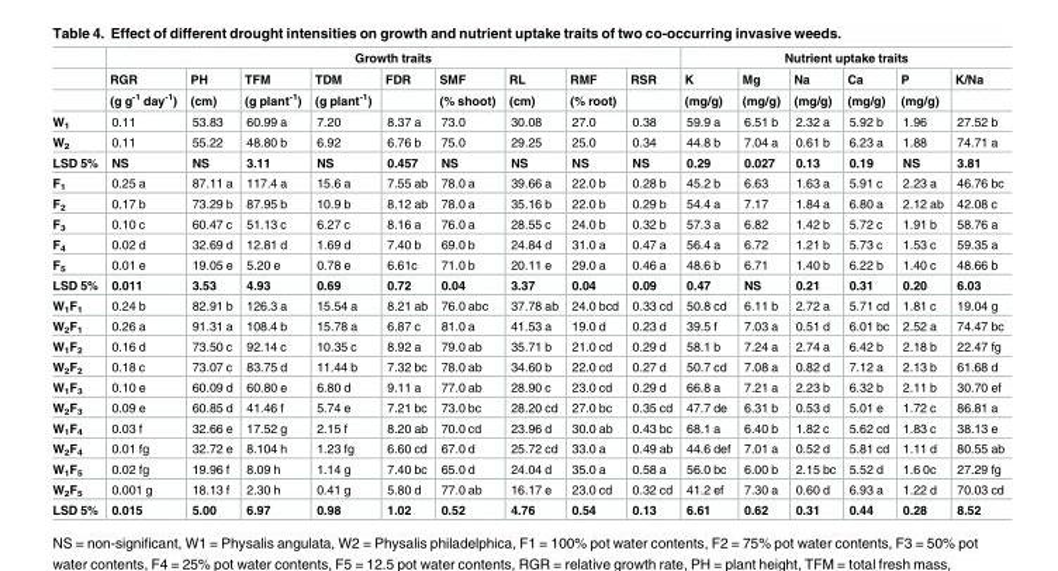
<table><thead><tr><td rowspan="3"></td><td colspan="9">Growth traits</td><td colspan="6">Nutrient uptake traits</td></tr><tr><td rowspan="2">RGR (g g<sup>-1</sup> day<sup>-1</sup>)</td><td rowspan="2">PH (cm)</td><td rowspan="2">TFM (g plant<sup>-1</sup>)</td><td rowspan="2">TDM (g plant<sup>-1</sup>)</td><td rowspan="2">FDR</td><td rowspan="2">SMF (% shoot)</td><td rowspan="2">RL (cm)</td><td rowspan="2">RMF (% root)</td><td rowspan="2">RSR</td><td rowspan="2">K (mg/g)</td><td rowspan="2">Mg (mg/g)</td><td rowspan="2">Na (mg/g)</td><td rowspan="2">Ca (mg/g)</td><td rowspan="2">P (mg/g)</td><td rowspan="2">K/Na</td></tr><tr></tr></thead><tbody><tr><td>W<sub>1</sub></td><td>0.11</td><td>53.83</td><td>60.99 a</td><td>7.20</td><td>8.37 a</td><td>73.0</td><td>30.08</td><td>27.0</td><td>0.38</td><td>59.9 a</td><td>6.51 b</td><td>2.32 a</td><td>5.92 b</td><td>1.96</td><td>27.52 b</td></tr><tr><td>W<sub>2</sub></td><td>0.11</td><td>55.22</td><td>48.80 b</td><td>6.92</td><td>6.76 b</td><td>75.0</td><td>29.25</td><td>25.0</td><td>0.34</td><td>44.8 b</td><td>7.04 a</td><td>0.61 b</td><td>6.23 a</td><td>1.88</td><td>74.71 a</td></tr><tr><td>LSD 5%</td><td>NS</td><td>NS</td><td>3.11</td><td>NS</td><td>0.457</td><td>NS</td><td>NS</td><td>NS</td><td>NS</td><td>0.29</td><td>0.027</td><td>0.13</td><td>0.19</td><td>NS</td><td>3.81</td></tr><tr><td>F<sub>1</sub></td><td>0.25 a</td><td>87.11 a</td><td>117.4 a</td><td>15.6 a</td><td>7.55 ab</td><td>78.0 a</td><td>39.66 a</td><td>22.0 b</td><td>0.28 b</td><td>45.2 b</td><td>6.63</td><td>1.63 a</td><td>5.91 c</td><td>2.23 a</td><td>46.76 bc</td></tr><tr><td>F<sub>2</sub></td><td>0.17 b</td><td>73.29 b</td><td>87.95 b</td><td>10.9 b</td><td>8.12 ab</td><td>78.0 a</td><td>35.16 b</td><td>22.0 b</td><td>0.29 b</td><td>54.4 a</td><td>7.17</td><td>1.84 a</td><td>6.80 a</td><td>2.12 ab</td><td>42.08 c</td></tr><tr><td>F<sub>3</sub></td><td>0.10 c</td><td>60.47 c</td><td>51.13 c</td><td>6.27 c</td><td>8.16 a</td><td>76.0 a</td><td>28.55 c</td><td>24.0 b</td><td>0.32 b</td><td>57.3 a</td><td>6.82</td><td>1.42 b</td><td>5.72 c</td><td>1.91 b</td><td>58.76 a</td></tr><tr><td>F<sub>4</sub></td><td>0.02 d</td><td>32.69 d</td><td>12.81 d</td><td>1.69 d</td><td>7.40 b</td><td>69.0 b</td><td>24.84 d</td><td>31.0 a</td><td>0.47 a</td><td>56.4 a</td><td>6.72</td><td>1.21 b</td><td>5.73 c</td><td>1.53 c</td><td>59.35 a</td></tr><tr><td>F<sub>5</sub></td><td>0.01 e</td><td>19.05 e</td><td>5.20 e</td><td>0.78 e</td><td>6.61c</td><td>71.0 b</td><td>20.11 e</td><td>29.0 a</td><td>0.46 a</td><td>48.6 b</td><td>6.71</td><td>1.40 b</td><td>6.22 b</td><td>1.40 c</td><td>48.66 b</td></tr><tr><td>LSD 5%</td><td>0.011</td><td>3.53</td><td>4.93</td><td>0.69</td><td>0.72</td><td>0.04</td><td>3.37</td><td>0.04</td><td>0.09</td><td>0.47</td><td>NS</td><td>0.21</td><td>0.31</td><td>0.20</td><td>6.03</td></tr><tr><td>W<sub>1</sub>F<sub>1</sub></td><td>0.24 b</td><td>82.91 b</td><td>126.3 a</td><td>15.54 a</td><td>8.21 ab</td><td>76.0 abc</td><td>37.78 ab</td><td>24.0 bcd</td><td>0.33 cd</td><td>50.8 cd</td><td>6.11 b</td><td>2.72 a</td><td>5.71 cd</td><td>1.81 c</td><td>19.04 g</td></tr><tr><td>W<sub>2</sub>F<sub>1</sub></td><td>0.26 a</td><td>91.31 a</td><td>108.4 b</td><td>15.78 a</td><td>6.87 c</td><td>81.0 a</td><td>41.53 a</td><td>19.0 d</td><td>0.23 d</td><td>39.5 f</td><td>7.03 a</td><td>0.51 d</td><td>6.01 bc</td><td>2.52 a</td><td>74.47 bc</td></tr><tr><td>W<sub>1</sub>F<sub>2</sub></td><td>0.16 d</td><td>73.50 c</td><td>92.14 c</td><td>10.35 c</td><td>8.92 a</td><td>79.0 ab</td><td>35.71 b</td><td>21.0 cd</td><td>0.29 d</td><td>58.1 b</td><td>7.24 a</td><td>2.74 a</td><td>6.42 b</td><td>2.18 b</td><td>22.47 fg</td></tr><tr><td>W<sub>2</sub>F<sub>2</sub></td><td>0.18 c</td><td>73.07 c</td><td>83.75 d</td><td>11.44 b</td><td>7.32 bc</td><td>78.0 ab</td><td>34.60 b</td><td>22.0 cd</td><td>0.27 d</td><td>50.7 cd</td><td>7.08 a</td><td>0.82 d</td><td>7.12 a</td><td>2.13 b</td><td>61.68 d</td></tr><tr><td>W<sub>1</sub>F<sub>3</sub></td><td>0.10 e</td><td>60.09 d</td><td>60.80 e</td><td>6.80 d</td><td>9.11 a</td><td>77.0 ab</td><td>28.90 c</td><td>23.0 cd</td><td>0.29 d</td><td>66.8 a</td><td>7.21 a</td><td>2.23 b</td><td>6.32 b</td><td>2.11 b</td><td>30.70 ef</td></tr><tr><td>W<sub>2</sub>F<sub>3</sub></td><td>0.09 e</td><td>60.85 d</td><td>41.46 f</td><td>5.74 e</td><td>7.21 bc</td><td>73.0 bc</td><td>28.20 cd</td><td>27.0 bc</td><td>0.35 cd</td><td>47.7 de</td><td>6.31 b</td><td>0.53 d</td><td>5.01 e</td><td>1.72 c</td><td>86.81 a</td></tr><tr><td>W<sub>1</sub>F<sub>4</sub></td><td>0.03 f</td><td>32.66 e</td><td>17.52 g</td><td>2.15 f</td><td>8.20 ab</td><td>70.0 cd</td><td>23.96 d</td><td>30.0 ab</td><td>0.43 bc</td><td>68.1 a</td><td>6.40 b</td><td>1.82 c</td><td>5.62 cd</td><td>1.83 c</td><td>38.13 e</td></tr><tr><td>W<sub>2</sub>F<sub>4</sub></td><td>0.01 fg</td><td>32.72 e</td><td>8.104 h</td><td>1.23 fg</td><td>6.60 cd</td><td>67.0 d</td><td>25.72 cd</td><td>33.0 a</td><td>0.49 ab</td><td>44.6 def</td><td>7.01 a</td><td>0.52 d</td><td>5.81 cd</td><td>1.11 d</td><td>80.55 ab</td></tr><tr><td>W<sub>1</sub>F<sub>5</sub></td><td>0.02 fg</td><td>19.96 f</td><td>8.09 h</td><td>1.14 g</td><td>7.40 bc</td><td>65.0 d</td><td>24.04 d</td><td>35.0 a</td><td>0.58 a</td><td>56.0 bc</td><td>6.00 b</td><td>2.15 bc</td><td>5.52 d</td><td>1.6 0c</td><td>27.29 fg</td></tr><tr><td>W<sub>2</sub>F<sub>5</sub></td><td>0.001 g</td><td>18.13 f</td><td>2.30 h</td><td>0.41 g</td><td>5.80 d</td><td>77.0 ab</td><td>16.17 e</td><td>23.0 cd</td><td>0.32 cd</td><td>41.2 ef</td><td>7.30 a</td><td>0.60 d</td><td>6.93 a</td><td>1.22 d</td><td>70.03 cd</td></tr><tr><td>LSD 5%</td><td>0.015</td><td>5.00</td><td>6.97</td><td>0.98</td><td>1.02</td><td>0.52</td><td>4.76</td><td>0.54</td><td>0.13</td><td>6.61</td><td>0.62</td><td>0.31</td><td>0.44</td><td>0.28</td><td>8.52</td></tr></tbody></table>